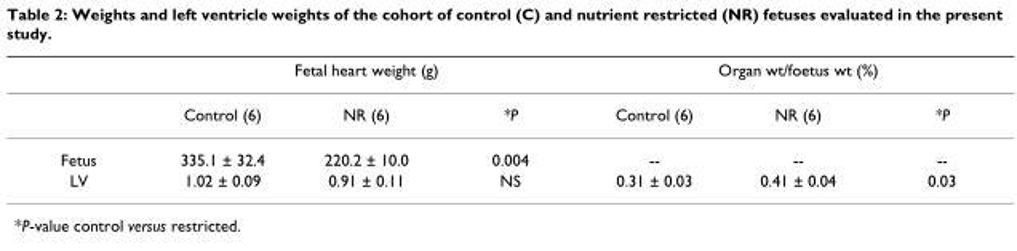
<table><thead><tr><td rowspan="2"></td><td colspan="3">Fetal heart weight (g)</td><td colspan="3">Organ wt/foetus wt (%)</td></tr><tr><td>Control (6)</td><td>NR (6)</td><td>*P</td><td>Control (6)</td><td>NR (6)</td><td>*P</td></tr></thead><tbody><tr><td>Fetus</td><td>335.1 ± 32.4</td><td>220.2 ± 10.0</td><td>0.004</td><td>--</td><td>--</td><td>--</td></tr><tr><td>LV</td><td>1.02 ± 0.09</td><td>0.91 ± 0.11</td><td>NS</td><td>0.31 ± 0.03</td><td>0.41 ± 0.04</td><td>0.03</td></tr></tbody></table>